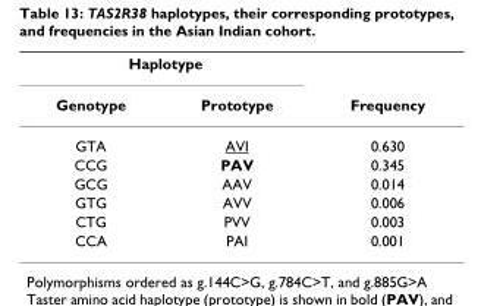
<table><thead><tr><td colspan="2">Haplotype</td><td rowspan="2">Frequency</td></tr><tr><td>Genotype</td><td>Prototype</td></tr></thead><tbody><tr><td>GTA</td><td>AVI</td><td>0.630</td></tr><tr><td>CCG</td><td>PAV</td><td>0.345</td></tr><tr><td>GCG</td><td>AAV</td><td>0.014</td></tr><tr><td>GTG</td><td>AVV</td><td>0.006</td></tr><tr><td>CTG</td><td>PVV</td><td>0.003</td></tr><tr><td>CCA</td><td>PAI</td><td>0.001</td></tr></tbody></table>